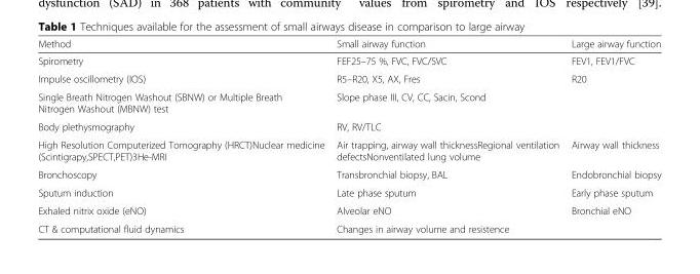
<table><thead><tr><td>Method</td><td>Small airway function</td><td>Large airway function</td></tr></thead><tbody><tr><td>Spirometry</td><td>FEF25–75 %, FVC, FVC/SVC</td><td>FEV1, FEV1/FVC</td></tr><tr><td>Impulse oscillometry (IOS)</td><td>R5–R20, X5, AX, Fres</td><td>R20</td></tr><tr><td>Single Breath Nitrogen Washout (SBNW) or Multiple Breath Nitrogen Washout (MBNW) test</td><td>Slope phase III, CV, CC, Sacin, Scond</td><td></td></tr><tr><td>Body plethysmography</td><td>RV, RV/TLC</td><td></td></tr><tr><td>High Resolution Computerized Tomography (HRCT)Nuclear medicine (Scintigrapy,SPECT,PET)3He-MRI</td><td>Air trapping, airway wall thicknessRegional ventilation defectsNonventilated lung volume</td><td>Airway wall thickness</td></tr><tr><td>Bronchoscopy</td><td>Transbronchial biopsy, BAL</td><td>Endobronchial biopsy</td></tr><tr><td>Sputum induction</td><td>Late phase sputum</td><td>Early phase sputum</td></tr><tr><td>Exhaled nitrix oxide (eNO)</td><td>Alveolar eNO</td><td>Bronchial eNO</td></tr><tr><td>CT &amp; computational fluid dynamics</td><td>Changes in airway volume and resistence</td><td></td></tr></tbody></table>